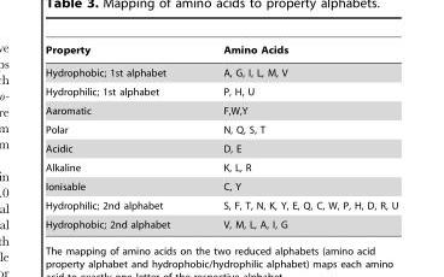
<table><thead><tr><td>Property</td><td>Amino Acids</td></tr></thead><tbody><tr><td>Hydrophobic; 1st alphabet</td><td>A, G, I, L, M, V</td></tr><tr><td>Hydrophilic; 1st alphabet</td><td>P, H, U</td></tr><tr><td>Aaromatic</td><td>F,W,Y</td></tr><tr><td>Polar</td><td>N, Q, S, T</td></tr><tr><td>Acidic</td><td>D, E</td></tr><tr><td>Alkaline</td><td>K, L, R</td></tr><tr><td>Ionisable</td><td>C, Y</td></tr><tr><td>Hydrophilic; 2nd alphabet</td><td>S, F, T, N, K, Y, E, Q, C, W, P, H, D, R, U</td></tr><tr><td>Hydrophobic; 2nd alphabet</td><td>V, M, L, A, I, G</td></tr></tbody></table>